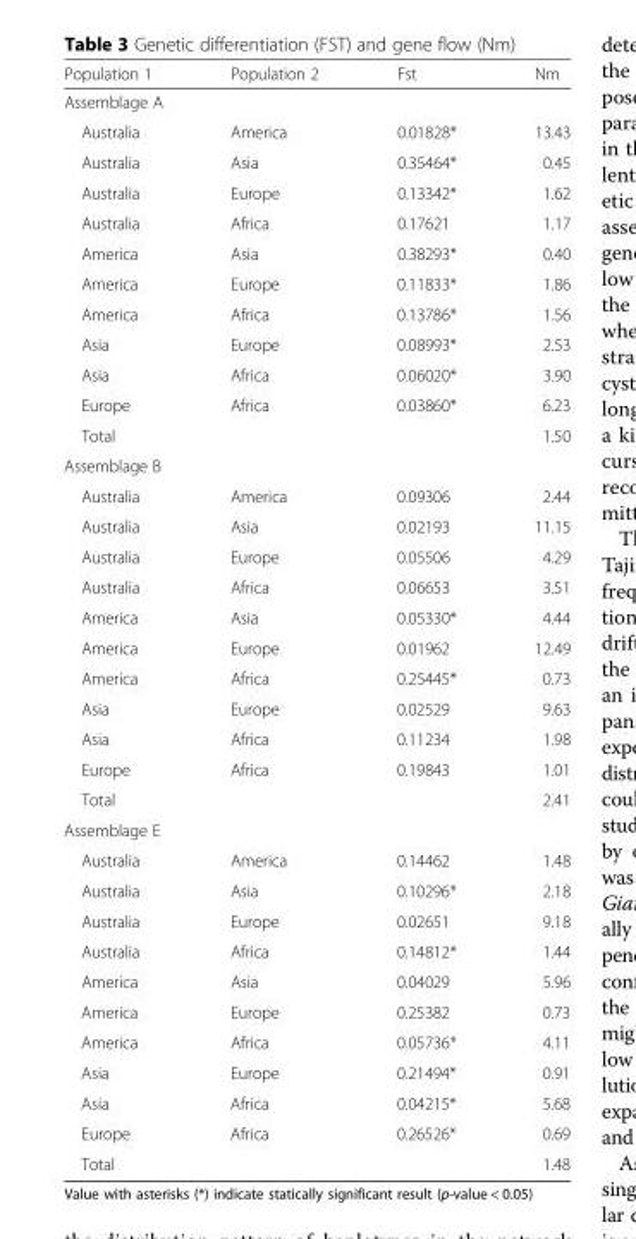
<table><thead><tr><td>Population 1</td><td>Population 2</td><td>Fst</td><td>Nm</td></tr></thead><tbody><tr><td colspan="4">Assemblage A</td></tr><tr><td>Australia</td><td>America</td><td>0.01828*</td><td>13.43</td></tr><tr><td>Australia</td><td>Asia</td><td>0.35464*</td><td>0.45</td></tr><tr><td>Australia</td><td>Europe</td><td>0.13342*</td><td>1.62</td></tr><tr><td>Australia</td><td>Africa</td><td>0.17621</td><td>1.17</td></tr><tr><td>America</td><td>Asia</td><td>0.38293*</td><td>0.40</td></tr><tr><td>America</td><td>Europe</td><td>0.11833*</td><td>1.86</td></tr><tr><td>America</td><td>Africa</td><td>0.13786*</td><td>1.56</td></tr><tr><td>Asia</td><td>Europe</td><td>0.08993*</td><td>2.53</td></tr><tr><td>Asia</td><td>Africa</td><td>0.06020*</td><td>3.90</td></tr><tr><td>Europe</td><td>Africa</td><td>0.03860*</td><td>6.23</td></tr><tr><td>Total</td><td></td><td></td><td>1.50</td></tr><tr><td colspan="4">Assemblage B</td></tr><tr><td>Australia</td><td>America</td><td>0.09306</td><td>2.44</td></tr><tr><td>Australia</td><td>Asia</td><td>0.02193</td><td>11.15</td></tr><tr><td>Australia</td><td>Europe</td><td>0.05506</td><td>4.29</td></tr><tr><td>Australia</td><td>Africa</td><td>0.06653</td><td>3.51</td></tr><tr><td>America</td><td>Asia</td><td>0.05330*</td><td>4.44</td></tr><tr><td>America</td><td>Europe</td><td>0.01962</td><td>12.49</td></tr><tr><td>America</td><td>Africa</td><td>0.25445*</td><td>0.73</td></tr><tr><td>Asia</td><td>Europe</td><td>0.02529</td><td>9.63</td></tr><tr><td>Asia</td><td>Africa</td><td>0.11234</td><td>1.98</td></tr><tr><td>Europe</td><td>Africa</td><td>0.19843</td><td>1.01</td></tr><tr><td>Total</td><td></td><td></td><td>2.41</td></tr><tr><td colspan="4">Assemblage E</td></tr><tr><td>Australia</td><td>America</td><td>0.14462</td><td>1.48</td></tr><tr><td>Australia</td><td>Asia</td><td>0.10296*</td><td>2.18</td></tr><tr><td>Australia</td><td>Europe</td><td>0.02651</td><td>9.18</td></tr><tr><td>Australia</td><td>Africa</td><td>0.14812*</td><td>1.44</td></tr><tr><td>America</td><td>Asia</td><td>0.04029</td><td>5.96</td></tr><tr><td>America</td><td>Europe</td><td>0.25382</td><td>0.73</td></tr><tr><td>America</td><td>Africa</td><td>0.05736*</td><td>4.11</td></tr><tr><td>Asia</td><td>Europe</td><td>0.21494*</td><td>0.91</td></tr><tr><td>Asia</td><td>Africa</td><td>0.04215*</td><td>5.68</td></tr><tr><td>Europe</td><td>Africa</td><td>0.26526*</td><td>0.69</td></tr><tr><td>Total</td><td></td><td></td><td>1.48</td></tr></tbody></table>